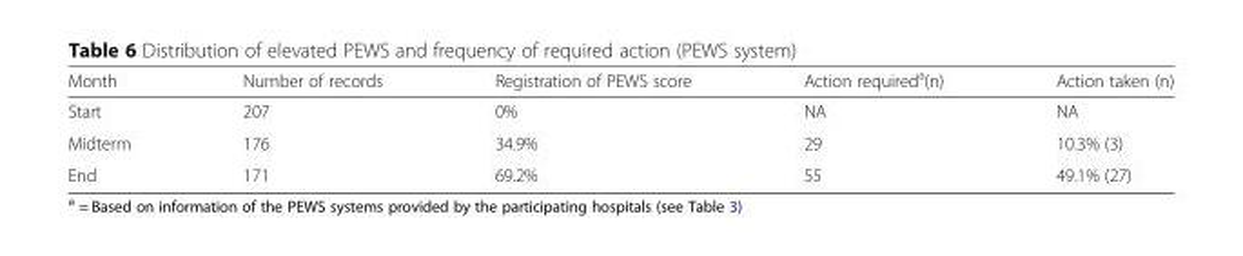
<table><thead><tr><td>Month</td><td>Number of records</td><td>Registration of PEWS score</td><td>Action required<sup>a</sup>(n)</td><td>Action taken (n)</td></tr></thead><tbody><tr><td>Start</td><td>207</td><td>0%</td><td>NA</td><td>NA</td></tr><tr><td>Midterm</td><td>176</td><td>34.9%</td><td>29</td><td>10.3% (3)</td></tr><tr><td>End</td><td>171</td><td>69.2%</td><td>55</td><td>49.1% (27)</td></tr></tbody></table>